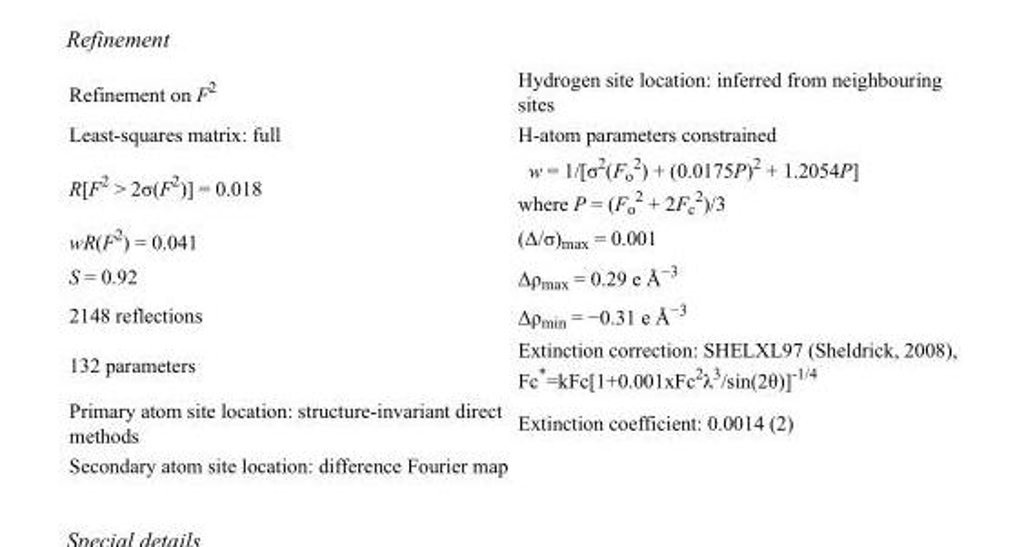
<table><tbody><tr><td>Refinement on F<sup>2</sup></td><td>Hydrogen site location: inferred from neighbouring sites</td></tr><tr><td>Least-squares matrix: full</td><td>H-atom parameters constrained</td></tr><tr><td>R[F<sup>2</sup> &gt; 2σ(F<sup>2</sup>)] = 0.018</td><td>w = 1/[σ<sup>2</sup>(F<sub>o</sub> <sup>2</sup>) + (0.0175P)<sup>2</sup> + 1.2054P] where P = (F<sub>o</sub> <sup>2</sup> + 2F<sub>c</sub> <sup>2</sup>)/3</td></tr><tr><td>wR(F<sup>2</sup>) = 0.041</td><td>(Δ/σ)<sub>max</sub> = 0.001</td></tr><tr><td>S = 0.92</td><td>Δρ<sub>max</sub> = 0.29 e Å<sup>−3</sup></td></tr><tr><td>2148 reflections</td><td>Δρ<sub>min</sub> = −0.31 e Å<sup>−3</sup></td></tr><tr><td>132 parameters</td><td>Extinction correction: SHELXL97 (Sheldrick, 2008), Fc*=kFc[1+0.001xFc<sup>2</sup>λ<sup>3</sup>/sin(2θ)]<sup>-1/4</sup></td></tr><tr><td>Primary atom site location: structure-invariant direct methods</td><td>Extinction coefficient: 0.0014 (2)</td></tr><tr><td>Secondary atom site location: difference Fourier map</td><td></td></tr></tbody></table>